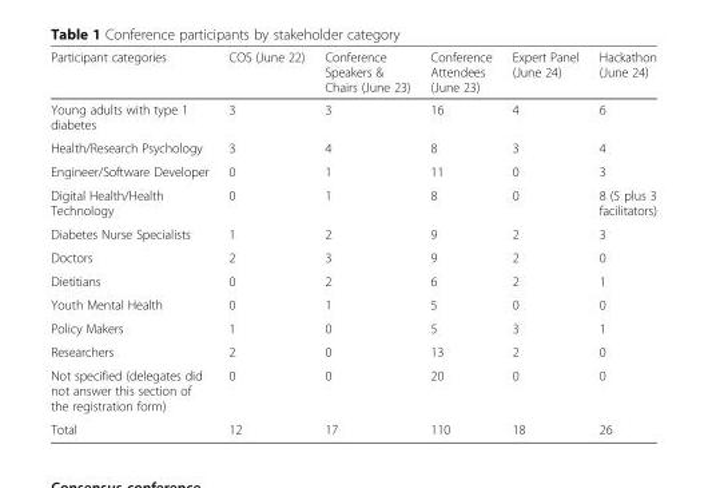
<table><thead><tr><td>Participant categories</td><td>COS (June 22)</td><td>Conference Speakers &amp; Chairs (June 23)</td><td>Conference Attendees (June 23)</td><td>Expert Panel (June 24)</td><td>Hackathon (June 24)</td></tr></thead><tbody><tr><td>Young adults with type 1 diabetes</td><td>3</td><td>3</td><td>16</td><td>4</td><td>6</td></tr><tr><td>Health/Research Psychology</td><td>3</td><td>4</td><td>8</td><td>3</td><td>4</td></tr><tr><td>Engineer/Software Developer</td><td>0</td><td>1</td><td>11</td><td>0</td><td>3</td></tr><tr><td>Digital Health/Health Technology</td><td>0</td><td>1</td><td>8</td><td>0</td><td>8 (5 plus 3 facilitators)</td></tr><tr><td>Diabetes Nurse Specialists</td><td>1</td><td>2</td><td>9</td><td>2</td><td>3</td></tr><tr><td>Doctors</td><td>2</td><td>3</td><td>9</td><td>2</td><td>0</td></tr><tr><td>Dietitians</td><td>0</td><td>2</td><td>6</td><td>2</td><td>1</td></tr><tr><td>Youth Mental Health</td><td>0</td><td>1</td><td>5</td><td>0</td><td>0</td></tr><tr><td>Policy Makers</td><td>1</td><td>0</td><td>5</td><td>3</td><td>1</td></tr><tr><td>Researchers</td><td>2</td><td>0</td><td>13</td><td>2</td><td>0</td></tr><tr><td>Not specified (delegates did not answer this section of the registration form)</td><td>0</td><td>0</td><td>20</td><td>0</td><td>0</td></tr><tr><td>Total</td><td>12</td><td>17</td><td>110</td><td>18</td><td>26</td></tr></tbody></table>